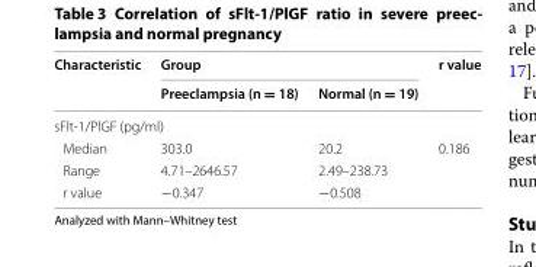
<table><thead><tr><td rowspan="2">Characteristic</td><td colspan="2">Group</td><td rowspan="2">r value</td></tr><tr><td>Preeclampsia (n = 18)</td><td>Normal (n = 19)</td></tr></thead><tbody><tr><td colspan="4">sFlt-1/PlGF (pg/ml)</td></tr><tr><td>Median</td><td>303.0</td><td>20.2</td><td>0.186</td></tr><tr><td>Range</td><td>4.71–2646.57</td><td>2.49–238.73</td><td></td></tr><tr><td>r value</td><td>−0.347</td><td>−0.508</td><td></td></tr></tbody></table>